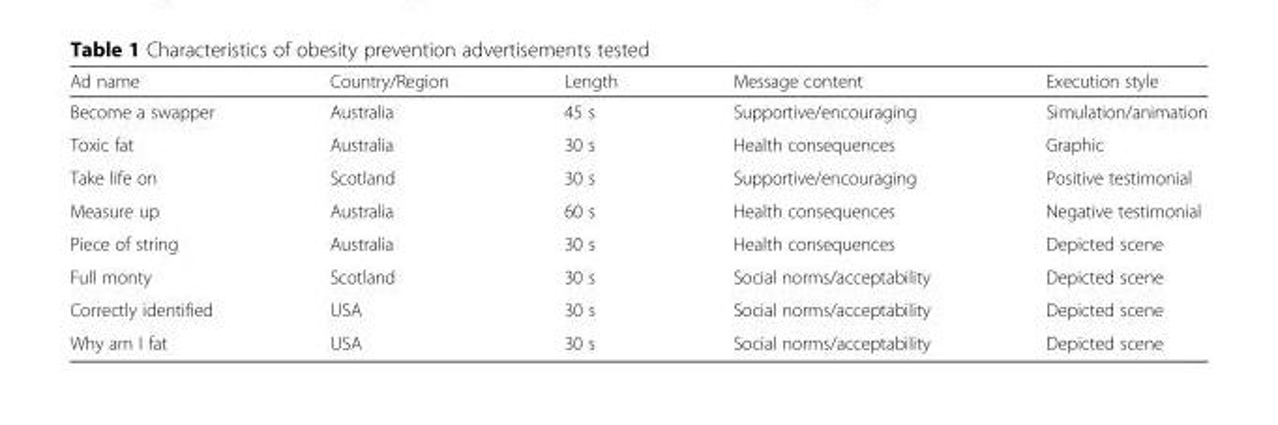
<table><thead><tr><td>Ad name</td><td>Country/Region</td><td>Length</td><td>Message content</td><td>Execution style</td></tr></thead><tbody><tr><td>Become a swapper</td><td>Australia</td><td>45 s</td><td>Supportive/encouraging</td><td>Simulation/animation</td></tr><tr><td>Toxic fat</td><td>Australia</td><td>30 s</td><td>Health consequences</td><td>Graphic</td></tr><tr><td>Take life on</td><td>Scotland</td><td>30 s</td><td>Supportive/encouraging</td><td>Positive testimonial</td></tr><tr><td>Measure up</td><td>Australia</td><td>60 s</td><td>Health consequences</td><td>Negative testimonial</td></tr><tr><td>Piece of string</td><td>Australia</td><td>30 s</td><td>Health consequences</td><td>Depicted scene</td></tr><tr><td>Full monty</td><td>Scotland</td><td>30 s</td><td>Social norms/acceptability</td><td>Depicted scene</td></tr><tr><td>Correctly identified</td><td>USA</td><td>30 s</td><td>Social norms/acceptability</td><td>Depicted scene</td></tr><tr><td>Why am I fat</td><td>USA</td><td>30 s</td><td>Social norms/acceptability</td><td>Depicted scene</td></tr></tbody></table>